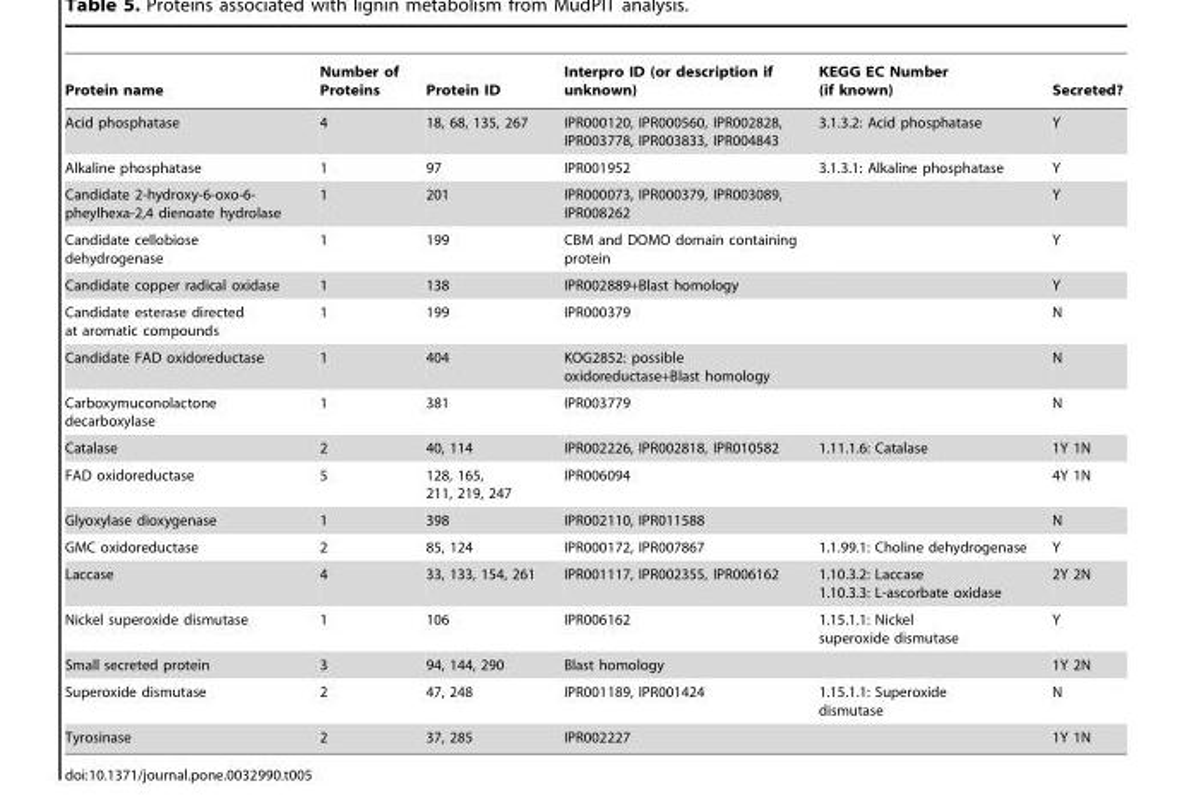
<table><thead><tr><td>Protein name</td><td>Number of Proteins</td><td>Protein ID</td><td>Interpro ID (or description if unknown)</td><td>KEGG EC Number (if known)</td><td>Secreted?</td></tr></thead><tbody><tr><td>Acid phosphatase</td><td>4</td><td>18, 68, 135, 267</td><td>IPR000120, IPR000560, IPR002828, IPR003778, IPR003833, IPR004843</td><td>3.1.3.2: Acid phosphatase</td><td>Y</td></tr><tr><td>Alkaline phosphatase</td><td>1</td><td>97</td><td>IPR001952</td><td>3.1.3.1: Alkaline phosphatase</td><td>Y</td></tr><tr><td>Candidate 2-hydroxy-6-oxo-6- pheylhexa-2,4 dienoate hydrolase</td><td>1</td><td>201</td><td>IPR000073, IPR000379, IPR003089, IPR008262</td><td></td><td>Y</td></tr><tr><td>Candidate cellobiose dehydrogenase</td><td>1</td><td>199</td><td>CBM and DOMO domain containing protein</td><td></td><td>Y</td></tr><tr><td>Candidate copper radical oxidase</td><td>1</td><td>138</td><td>IPR002889+Blast homology</td><td></td><td>Y</td></tr><tr><td>Candidate esterase directed at aromatic compounds</td><td>1</td><td>199</td><td>IPR000379</td><td></td><td>N</td></tr><tr><td>Candidate FAD oxidoreductase</td><td>1</td><td>404</td><td>KOG2852: possible oxidoreductase+Blast homology</td><td></td><td>N</td></tr><tr><td>Carboxymuconolactone decarboxylase</td><td>1</td><td>381</td><td>IPR003779</td><td></td><td>N</td></tr><tr><td>Catalase</td><td>2</td><td>40, 114</td><td>IPR002226, IPR002818, IPR010582</td><td>1.11.1.6: Catalase</td><td>1Y 1N</td></tr><tr><td>FAD oxidoreductase</td><td>5</td><td>128, 165, 211, 219, 247</td><td>IPR006094</td><td></td><td>4Y 1N</td></tr><tr><td>Glyoxylase dioxygenase</td><td>1</td><td>398</td><td>IPR002110, IPR011588</td><td></td><td>N</td></tr><tr><td>GMC oxidoreductase</td><td>2</td><td>85, 124</td><td>IPR000172, IPR007867</td><td>1.1.99.1: Choline dehydrogenase</td><td>Y</td></tr><tr><td>Laccase</td><td>4</td><td>33, 133, 154, 261</td><td>IPR001117, IPR002355, IPR006162</td><td>1.10.3.2: Laccase 1.10.3.3: L-ascorbate oxidase</td><td>2Y 2N</td></tr><tr><td>Nickel superoxide dismutase</td><td>1</td><td>106</td><td>IPR006162</td><td>1.15.1.1: Nickel superoxide dismutase</td><td>Y</td></tr><tr><td>Small secreted protein</td><td>3</td><td>94, 144, 290</td><td>Blast homology</td><td></td><td>1Y 2N</td></tr><tr><td>Superoxide dismutase</td><td>2</td><td>47, 248</td><td>IPR001189, IPR001424</td><td>1.15.1.1: Superoxide dismutase</td><td>N</td></tr><tr><td>Tyrosinase</td><td>2</td><td>37, 285</td><td>IPR002227</td><td></td><td>1Y 1N</td></tr></tbody></table>